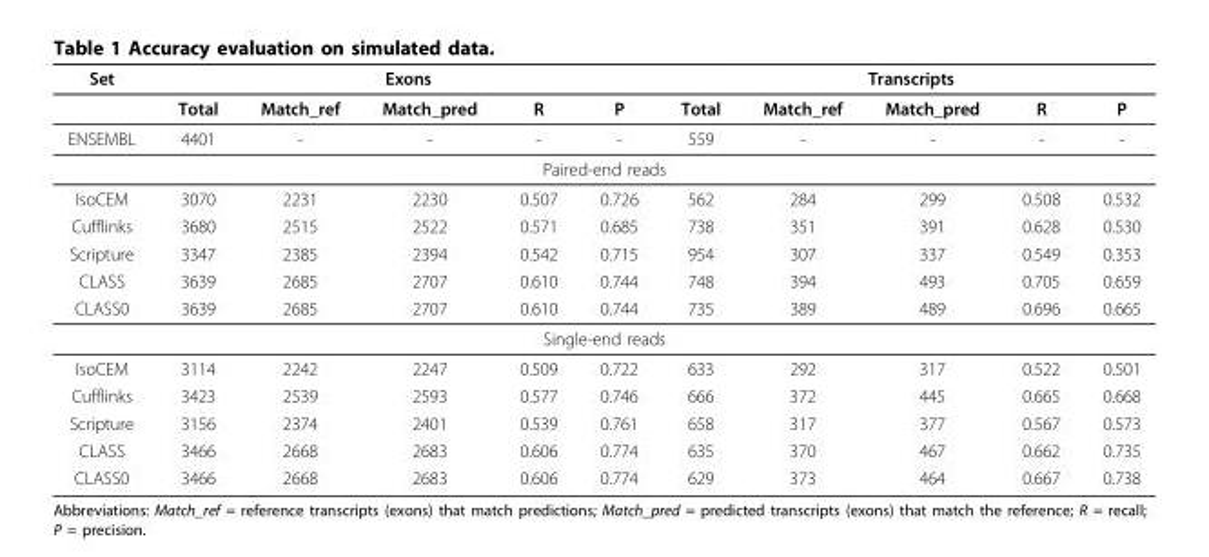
<table><thead><tr><td rowspan="2">Set</td><td colspan="5">Exons</td><td colspan="5">Transcripts</td></tr><tr><td>Total</td><td>Match_ref</td><td>Match_pred</td><td>R</td><td>P</td><td>Total</td><td>Match_ref</td><td>Match_pred</td><td>R</td><td>P</td></tr></thead><tbody><tr><td>ENSEMBL</td><td>4401</td><td>-</td><td>-</td><td>-</td><td>-</td><td>559</td><td>-</td><td>-</td><td>-</td><td>-</td></tr><tr><td colspan="11">Paired-end reads</td></tr><tr><td>IsoCEM</td><td>3070</td><td>2231</td><td>2230</td><td>0.507</td><td>0.726</td><td>562</td><td>284</td><td>299</td><td>0.508</td><td>0.532</td></tr><tr><td>Cufflinks</td><td>3680</td><td>2515</td><td>2522</td><td>0.571</td><td>0.685</td><td>738</td><td>351</td><td>391</td><td>0.628</td><td>0.530</td></tr><tr><td>Scripture</td><td>3347</td><td>2385</td><td>2394</td><td>0.542</td><td>0.715</td><td>954</td><td>307</td><td>337</td><td>0.549</td><td>0.353</td></tr><tr><td>CLASS</td><td>3639</td><td>2685</td><td>2707</td><td>0.610</td><td>0.744</td><td>748</td><td>394</td><td>493</td><td>0.705</td><td>0.659</td></tr><tr><td>CLASS0</td><td>3639</td><td>2685</td><td>2707</td><td>0.610</td><td>0.744</td><td>735</td><td>389</td><td>489</td><td>0.696</td><td>0.665</td></tr><tr><td colspan="11">Single-end reads</td></tr><tr><td>IsoCEM</td><td>3114</td><td>2242</td><td>2247</td><td>0.509</td><td>0.722</td><td>633</td><td>292</td><td>317</td><td>0.522</td><td>0.501</td></tr><tr><td>Cufflinks</td><td>3423</td><td>2539</td><td>2593</td><td>0.577</td><td>0.746</td><td>666</td><td>372</td><td>445</td><td>0.665</td><td>0.668</td></tr><tr><td>Scripture</td><td>3156</td><td>2374</td><td>2401</td><td>0.539</td><td>0.761</td><td>658</td><td>317</td><td>377</td><td>0.567</td><td>0.573</td></tr><tr><td>CLASS</td><td>3466</td><td>2668</td><td>2683</td><td>0.606</td><td>0.774</td><td>635</td><td>370</td><td>467</td><td>0.662</td><td>0.735</td></tr><tr><td>CLASS0</td><td>3466</td><td>2668</td><td>2683</td><td>0.606</td><td>0.774</td><td>629</td><td>373</td><td>464</td><td>0.667</td><td>0.738</td></tr></tbody></table>